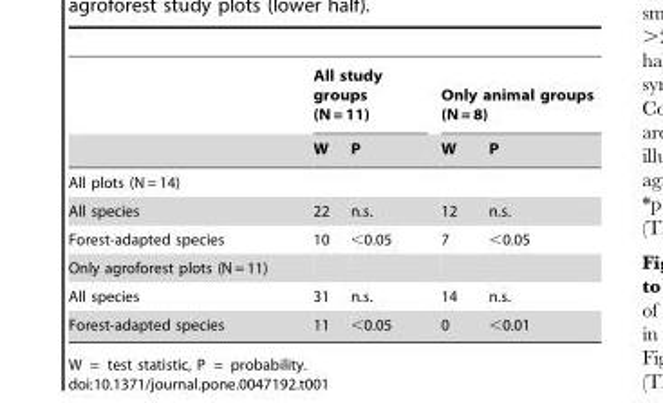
<table><thead><tr><td rowspan="2"></td><td colspan="2">All study groups (N = 11)</td><td colspan="2">Only animal groups (N = 8)</td></tr><tr><td>W</td><td>P</td><td>W</td><td>P</td></tr></thead><tbody><tr><td colspan="5">All plots (N = 14)</td></tr><tr><td>All species</td><td>22</td><td>n.s.</td><td>12</td><td>n.s.</td></tr><tr><td>Forest-adapted species</td><td>10</td><td>&lt;0.05</td><td>7</td><td>&lt;0.05</td></tr><tr><td colspan="5">Only agroforest plots (N = 11)</td></tr><tr><td>All species</td><td>31</td><td>n.s.</td><td>14</td><td>n.s.</td></tr><tr><td>Forest-adapted species</td><td>11</td><td>&lt;0.05</td><td>0</td><td>&lt;0.01</td></tr></tbody></table>